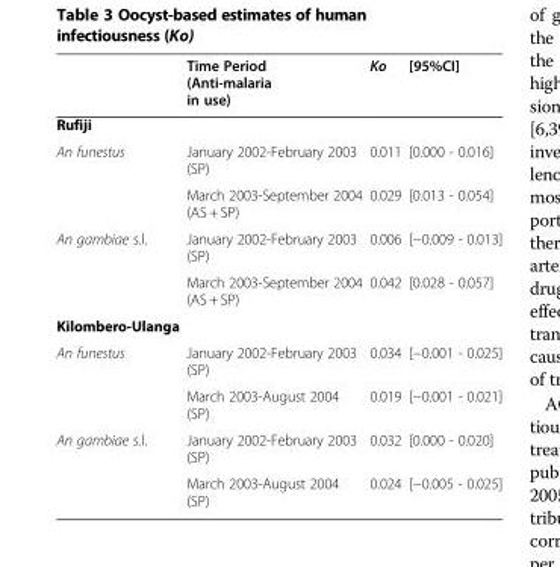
<table><thead><tr><td></td><td>Time Period (Anti-malaria in use)</td><td>Ko</td><td>[95%CI]</td></tr></thead><tbody><tr><td colspan="4">Rufiji</td></tr><tr><td rowspan="2">An funestus</td><td>January 2002-February 2003 (SP)</td><td>0.011</td><td>[0.000 - 0.016]</td></tr><tr><td>March 2003-September 2004 (AS + SP)</td><td>0.029</td><td>[0.013 - 0.054]</td></tr><tr><td rowspan="2">An gambiae s.l.</td><td>January 2002-February 2003 (SP)</td><td>0.006</td><td>[−0.009 - 0.013]</td></tr><tr><td>March 2003-September 2004 (AS + SP)</td><td>0.042</td><td>[0.028 - 0.057]</td></tr><tr><td colspan="4">Kilombero-Ulanga</td></tr><tr><td rowspan="2">An funestus</td><td>January 2002-February 2003 (SP)</td><td>0.034</td><td>[−0.001 - 0.025]</td></tr><tr><td>March 2003-August 2004 (SP)</td><td>0.019</td><td>[−0.001 - 0.021]</td></tr><tr><td rowspan="2">An gambiae s.l.</td><td>January 2002-February 2003 (SP)</td><td>0.032</td><td>[0.000 - 0.020]</td></tr><tr><td>March 2003-August 2004 (SP)</td><td>0.024</td><td>[−0.005 - 0.025]</td></tr></tbody></table>